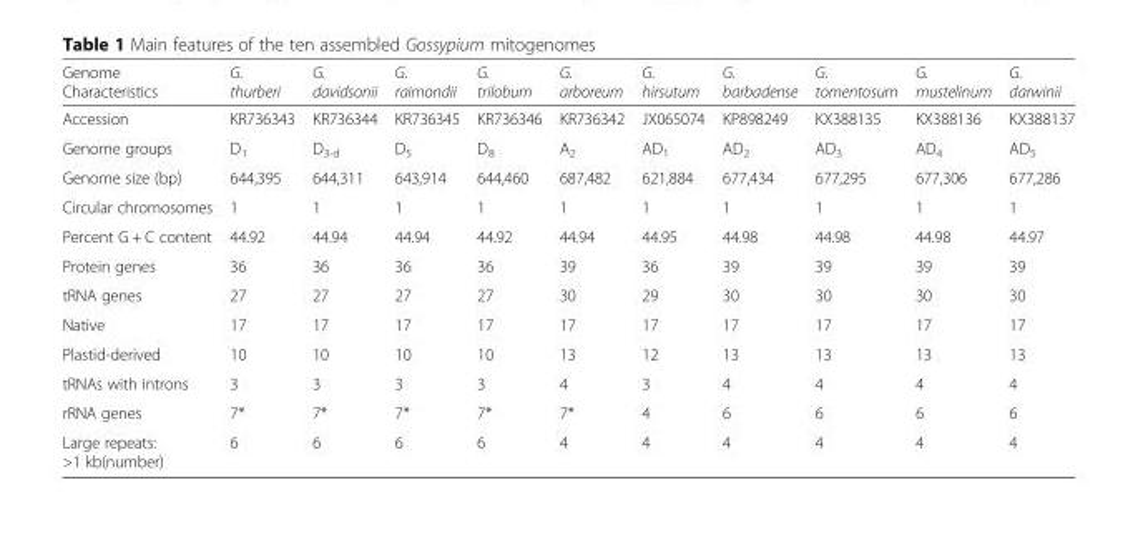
<table><thead><tr><td>Genome Characteristics</td><td>G. thurberi</td><td>G. davidsonii</td><td>G. raimondii</td><td>G. trilobum</td><td>G. arboreum</td><td>G. hirsutum</td><td>G. barbadense</td><td>G. tomentosum</td><td>G. mustelinum</td><td>G. darwinii</td></tr></thead><tbody><tr><td>Accession</td><td>KR736343</td><td>KR736344</td><td>KR736345</td><td>KR736346</td><td>KR736342</td><td>JX065074</td><td>KP898249</td><td>KX388135</td><td>KX388136</td><td>KX388137</td></tr><tr><td>Genome groups</td><td>D<sub>1</sub></td><td>D<sub>3-d</sub></td><td>D<sub>5</sub></td><td>D<sub>8</sub></td><td>A<sub>2</sub></td><td>AD<sub>1</sub></td><td>AD<sub>2</sub></td><td>AD<sub>3</sub></td><td>AD<sub>4</sub></td><td>AD<sub>5</sub></td></tr><tr><td>Genome size (bp)</td><td>644,395</td><td>644,311</td><td>643,914</td><td>644,460</td><td>687,482</td><td>621,884</td><td>677,434</td><td>677,295</td><td>677,306</td><td>677,286</td></tr><tr><td>Circular chromosomes</td><td>1</td><td>1</td><td>1</td><td>1</td><td>1</td><td>1</td><td>1</td><td>1</td><td>1</td><td>1</td></tr><tr><td>Percent G + C content</td><td>44.92</td><td>44.94</td><td>44.94</td><td>44.92</td><td>44.94</td><td>44.95</td><td>44.98</td><td>44.98</td><td>44.98</td><td>44.97</td></tr><tr><td>Protein genes</td><td>36</td><td>36</td><td>36</td><td>36</td><td>39</td><td>36</td><td>39</td><td>39</td><td>39</td><td>39</td></tr><tr><td>tRNA genes</td><td>27</td><td>27</td><td>27</td><td>27</td><td>30</td><td>29</td><td>30</td><td>30</td><td>30</td><td>30</td></tr><tr><td>Native</td><td>17</td><td>17</td><td>17</td><td>17</td><td>17</td><td>17</td><td>17</td><td>17</td><td>17</td><td>17</td></tr><tr><td>Plastid-derived</td><td>10</td><td>10</td><td>10</td><td>10</td><td>13</td><td>12</td><td>13</td><td>13</td><td>13</td><td>13</td></tr><tr><td>tRNAs with introns</td><td>3</td><td>3</td><td>3</td><td>3</td><td>4</td><td>3</td><td>4</td><td>4</td><td>4</td><td>4</td></tr><tr><td>rRNA genes</td><td>7*</td><td>7*</td><td>7*</td><td>7*</td><td>7*</td><td>4</td><td>6</td><td>6</td><td>6</td><td>6</td></tr><tr><td>Large repeats: &gt;1 kb(number)</td><td>6</td><td>6</td><td>6</td><td>6</td><td>4</td><td>4</td><td>4</td><td>4</td><td>4</td><td>4</td></tr></tbody></table>